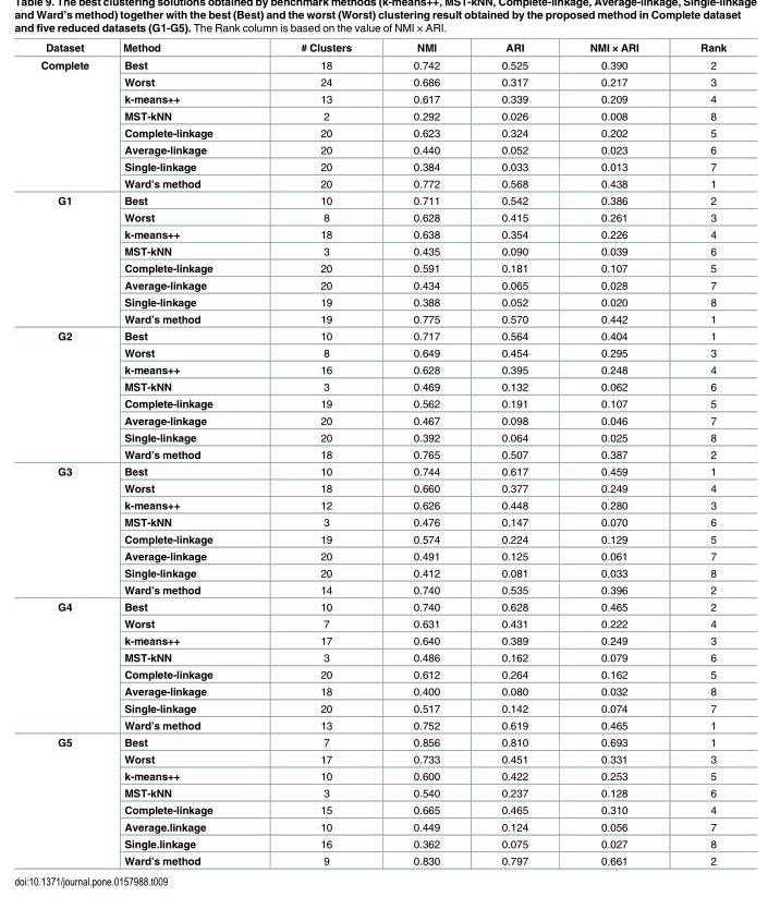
<table><thead><tr><td>Dataset</td><td>Method</td><td># Clusters</td><td>NMI</td><td>ARI</td><td>NMI × ARI</td><td>Rank</td></tr></thead><tbody><tr><td rowspan="8">Complete</td><td>Best</td><td>18</td><td>0.742</td><td>0.525</td><td>0.390</td><td>2</td></tr><tr><td>Worst</td><td>24</td><td>0.686</td><td>0.317</td><td>0.217</td><td>3</td></tr><tr><td>k-means++</td><td>13</td><td>0.617</td><td>0.339</td><td>0.209</td><td>4</td></tr><tr><td>MST-kNN</td><td>2</td><td>0.292</td><td>0.026</td><td>0.008</td><td>8</td></tr><tr><td>Complete-linkage</td><td>20</td><td>0.623</td><td>0.324</td><td>0.202</td><td>5</td></tr><tr><td>Average-linkage</td><td>20</td><td>0.440</td><td>0.052</td><td>0.023</td><td>6</td></tr><tr><td>Single-linkage</td><td>20</td><td>0.384</td><td>0.033</td><td>0.013</td><td>7</td></tr><tr><td>Ward’s method</td><td>20</td><td>0.772</td><td>0.568</td><td>0.438</td><td>1</td></tr><tr><td rowspan="8">G1</td><td>Best</td><td>10</td><td>0.711</td><td>0.542</td><td>0.386</td><td>2</td></tr><tr><td>Worst</td><td>8</td><td>0.628</td><td>0.415</td><td>0.261</td><td>3</td></tr><tr><td>k-means++</td><td>18</td><td>0.638</td><td>0.354</td><td>0.226</td><td>4</td></tr><tr><td>MST-kNN</td><td>3</td><td>0.435</td><td>0.090</td><td>0.039</td><td>6</td></tr><tr><td>Complete-linkage</td><td>20</td><td>0.591</td><td>0.181</td><td>0.107</td><td>5</td></tr><tr><td>Average-linkage</td><td>20</td><td>0.434</td><td>0.065</td><td>0.028</td><td>7</td></tr><tr><td>Single-linkage</td><td>19</td><td>0.388</td><td>0.052</td><td>0.020</td><td>8</td></tr><tr><td>Ward’s method</td><td>19</td><td>0.775</td><td>0.570</td><td>0.442</td><td>1</td></tr><tr><td rowspan="8">G2</td><td>Best</td><td>10</td><td>0.717</td><td>0.564</td><td>0.404</td><td>1</td></tr><tr><td>Worst</td><td>8</td><td>0.649</td><td>0.454</td><td>0.295</td><td>3</td></tr><tr><td>k-means++</td><td>16</td><td>0.628</td><td>0.395</td><td>0.248</td><td>4</td></tr><tr><td>MST-kNN</td><td>3</td><td>0.469</td><td>0.132</td><td>0.062</td><td>6</td></tr><tr><td>Complete-linkage</td><td>19</td><td>0.562</td><td>0.191</td><td>0.107</td><td>5</td></tr><tr><td>Average-linkage</td><td>20</td><td>0.467</td><td>0.098</td><td>0.046</td><td>7</td></tr><tr><td>Single-linkage</td><td>20</td><td>0.392</td><td>0.064</td><td>0.025</td><td>8</td></tr><tr><td>Ward’s method</td><td>18</td><td>0.765</td><td>0.507</td><td>0.387</td><td>2</td></tr><tr><td rowspan="8">G3</td><td>Best</td><td>10</td><td>0.744</td><td>0.617</td><td>0.459</td><td>1</td></tr><tr><td>Worst</td><td>18</td><td>0.660</td><td>0.377</td><td>0.249</td><td>4</td></tr><tr><td>k-means++</td><td>12</td><td>0.626</td><td>0.448</td><td>0.280</td><td>3</td></tr><tr><td>MST-kNN</td><td>3</td><td>0.476</td><td>0.147</td><td>0.070</td><td>6</td></tr><tr><td>Complete-linkage</td><td>19</td><td>0.574</td><td>0.224</td><td>0.129</td><td>5</td></tr><tr><td>Average-linkage</td><td>20</td><td>0.491</td><td>0.125</td><td>0.061</td><td>7</td></tr><tr><td>Single-linkage</td><td>20</td><td>0.412</td><td>0.081</td><td>0.033</td><td>8</td></tr><tr><td>Ward’s method</td><td>14</td><td>0.740</td><td>0.535</td><td>0.396</td><td>2</td></tr><tr><td rowspan="8">G4</td><td>Best</td><td>10</td><td>0.740</td><td>0.628</td><td>0.465</td><td>2</td></tr><tr><td>Worst</td><td>7</td><td>0.631</td><td>0.431</td><td>0.222</td><td>4</td></tr><tr><td>k-means++</td><td>17</td><td>0.640</td><td>0.389</td><td>0.249</td><td>3</td></tr><tr><td>MST-kNN</td><td>3</td><td>0.486</td><td>0.162</td><td>0.079</td><td>6</td></tr><tr><td>Complete-linkage</td><td>20</td><td>0.612</td><td>0.264</td><td>0.162</td><td>5</td></tr><tr><td>Average-linkage</td><td>18</td><td>0.400</td><td>0.080</td><td>0.032</td><td>8</td></tr><tr><td>Single-linkage</td><td>20</td><td>0.517</td><td>0.142</td><td>0.074</td><td>7</td></tr><tr><td>Ward’s method</td><td>13</td><td>0.752</td><td>0.619</td><td>0.465</td><td>1</td></tr><tr><td rowspan="8">G5</td><td>Best</td><td>7</td><td>0.856</td><td>0.810</td><td>0.693</td><td>1</td></tr><tr><td>Worst</td><td>17</td><td>0.733</td><td>0.451</td><td>0.331</td><td>3</td></tr><tr><td>k-means++</td><td>10</td><td>0.600</td><td>0.422</td><td>0.253</td><td>5</td></tr><tr><td>MST-kNN</td><td>3</td><td>0.540</td><td>0.237</td><td>0.128</td><td>6</td></tr><tr><td>Complete-linkage</td><td>15</td><td>0.665</td><td>0.465</td><td>0.310</td><td>4</td></tr><tr><td>Average.linkage</td><td>10</td><td>0.449</td><td>0.124</td><td>0.056</td><td>7</td></tr><tr><td>Single.linkage</td><td>16</td><td>0.362</td><td>0.075</td><td>0.027</td><td>8</td></tr><tr><td>Ward’s method</td><td>9</td><td>0.830</td><td>0.797</td><td>0.661</td><td>2</td></tr></tbody></table>